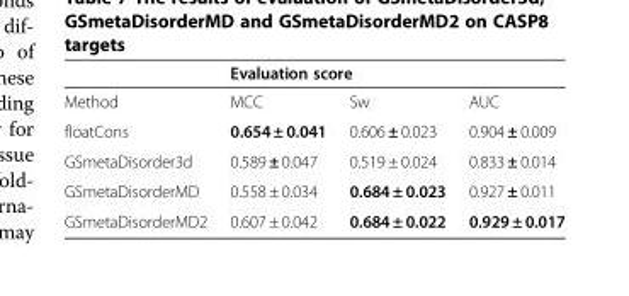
<table><thead><tr><td rowspan="2">Method</td><td colspan="3">Evaluation score</td></tr><tr><td>MCC</td><td>Sw</td><td>AUC</td></tr></thead><tbody><tr><td>floatCons</td><td>0.654 ± 0.041</td><td>0.606 ± 0.023</td><td>0.904 ± 0.009</td></tr><tr><td>GSmetaDisorder3d</td><td>0.589 ± 0.047</td><td>0.519 ± 0.024</td><td>0.833 ± 0.014</td></tr><tr><td>GSmetaDisorderMD</td><td>0.558 ± 0.034</td><td>0.684 ± 0.023</td><td>0.927 ± 0.011</td></tr><tr><td>GSmetaDisorderMD2</td><td>0.607 ± 0.042</td><td>0.684 ± 0.022</td><td>0.929 ± 0.017</td></tr></tbody></table>